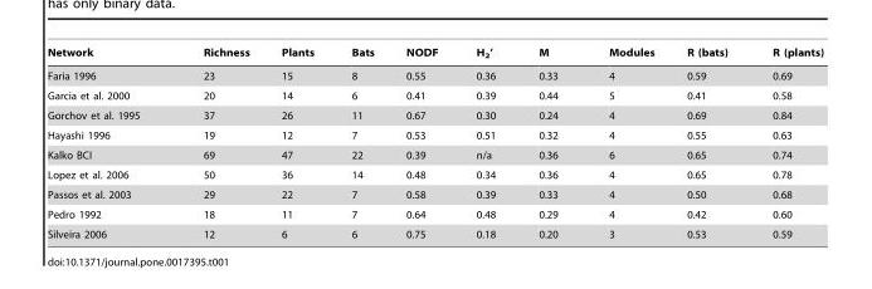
<table><thead><tr><td>Network</td><td>Richness</td><td>Plants</td><td>Bats</td><td>NODF</td><td>H<sub>2</sub>’</td><td>M</td><td>Modules</td><td>R (bats)</td><td>R (plants)</td></tr></thead><tbody><tr><td>Faria 1996</td><td>23</td><td>15</td><td>8</td><td>0.55</td><td>0.36</td><td>0.33</td><td>4</td><td>0.59</td><td>0.69</td></tr><tr><td>Garcia et al. 2000</td><td>20</td><td>14</td><td>6</td><td>0.41</td><td>0.39</td><td>0.44</td><td>5</td><td>0.41</td><td>0.58</td></tr><tr><td>Gorchov et al. 1995</td><td>37</td><td>26</td><td>11</td><td>0.67</td><td>0.30</td><td>0.24</td><td>4</td><td>0.69</td><td>0.84</td></tr><tr><td>Hayashi 1996</td><td>19</td><td>12</td><td>7</td><td>0.53</td><td>0.51</td><td>0.32</td><td>4</td><td>0.55</td><td>0.63</td></tr><tr><td>Kalko BCI</td><td>69</td><td>47</td><td>22</td><td>0.39</td><td>n/a</td><td>0.36</td><td>6</td><td>0.65</td><td>0.74</td></tr><tr><td>Lopez et al. 2006</td><td>50</td><td>36</td><td>14</td><td>0.48</td><td>0.34</td><td>0.36</td><td>4</td><td>0.65</td><td>0.78</td></tr><tr><td>Passos et al. 2003</td><td>29</td><td>22</td><td>7</td><td>0.58</td><td>0.39</td><td>0.33</td><td>4</td><td>0.50</td><td>0.68</td></tr><tr><td>Pedro 1992</td><td>18</td><td>11</td><td>7</td><td>0.64</td><td>0.48</td><td>0.29</td><td>4</td><td>0.42</td><td>0.60</td></tr><tr><td>Silveira 2006</td><td>12</td><td>6</td><td>6</td><td>0.75</td><td>0.18</td><td>0.20</td><td>3</td><td>0.53</td><td>0.59</td></tr></tbody></table>